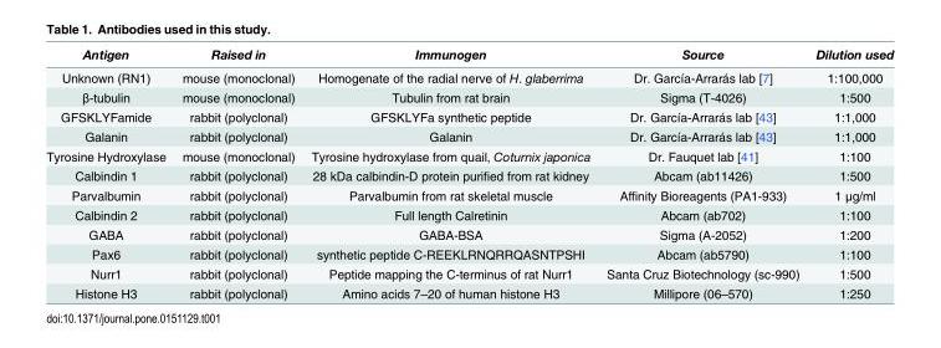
<table><thead><tr><td>Antigen</td><td>Raised in</td><td>Immunogen</td><td>Source</td><td>Dilution used</td></tr></thead><tbody><tr><td>Unknown (RN1)</td><td>mouse (monoclonal)</td><td>Homogenate of the radial nerve of H. glaberrima</td><td>Dr. García-Arrarás lab [7]</td><td>1:100,000</td></tr><tr><td>β-tubulin</td><td>mouse (monoclonal)</td><td>Tubulin from rat brain</td><td>Sigma (T-4026)</td><td>1:500</td></tr><tr><td>GFSKLYFamide</td><td>rabbit (polyclonal)</td><td>GFSKLYFa synthetic peptide</td><td>Dr. García-Arrarás lab [43]</td><td>1:1,000</td></tr><tr><td>Galanin</td><td>rabbit (polyclonal)</td><td>Galanin</td><td>Dr. García-Arrarás lab [43]</td><td>1:1,000</td></tr><tr><td>Tyrosine Hydroxylase</td><td>mouse (monoclonal)</td><td>Tyrosine hydroxylase from quail, Coturnix japonica</td><td>Dr. Fauquet lab [41]</td><td>1:100</td></tr><tr><td>Calbindin 1</td><td>rabbit (polyclonal)</td><td>28 kDa calbindin-D protein purified from rat kidney</td><td>Abcam (ab11426)</td><td>1:500</td></tr><tr><td>Parvalbumin</td><td>rabbit (polyclonal)</td><td>Parvalbumin from rat skeletal muscle</td><td>Affinity Bioreagents (PA1-933)</td><td>1 μg/ml</td></tr><tr><td>Calbindin 2</td><td>rabbit (polyclonal)</td><td>Full length Calretinin</td><td>Abcam (ab702)</td><td>1:100</td></tr><tr><td>GABA</td><td>rabbit (polyclonal)</td><td>GABA-BSA</td><td>Sigma (A-2052)</td><td>1:200</td></tr><tr><td>Pax6</td><td>rabbit (polyclonal)</td><td>synthetic peptide C-REEKLRNQRRQASNTPSHI</td><td>Abcam (ab5790)</td><td>1:100</td></tr><tr><td>Nurr1</td><td>rabbit (polyclonal)</td><td>Peptide mapping the C-terminus of rat Nurr1</td><td>Santa Cruz Biotechnology (sc-990)</td><td>1:500</td></tr><tr><td>Histone H3</td><td>rabbit (polyclonal)</td><td>Amino acids 7–20 of human histone H3</td><td>Millipore (06–570)</td><td>1:250</td></tr></tbody></table>